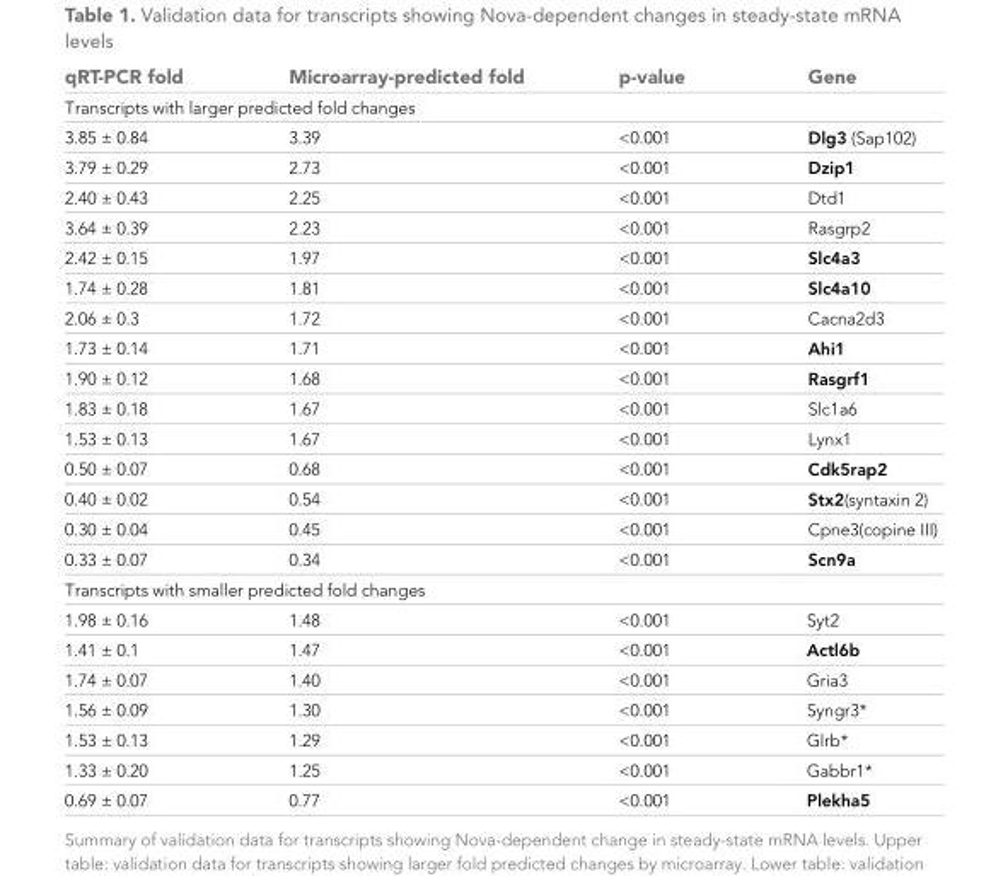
<table><thead><tr><td>qRT-PCR fold</td><td>Microarray-predicted fold</td><td>p-value</td><td>Gene</td></tr></thead><tbody><tr><td colspan="4">Transcripts with larger predicted fold changes</td></tr><tr><td>3.85 ± 0.84</td><td>3.39</td><td>&lt;0.001</td><td>Dlg3 (Sap102)</td></tr><tr><td>3.79 ± 0.29</td><td>2.73</td><td>&lt;0.001</td><td>Dzip1</td></tr><tr><td>2.40 ± 0.43</td><td>2.25</td><td>&lt;0.001</td><td>Dtd1</td></tr><tr><td>3.64 ± 0.39</td><td>2.23</td><td>&lt;0.001</td><td>Rasgrp2</td></tr><tr><td>2.42 ± 0.15</td><td>1.97</td><td>&lt;0.001</td><td>Slc4a3</td></tr><tr><td>1.74 ± 0.28</td><td>1.81</td><td>&lt;0.001</td><td>Slc4a10</td></tr><tr><td>2.06 ± 0.3</td><td>1.72</td><td>&lt;0.001</td><td>Cacna2d3</td></tr><tr><td>1.73 ± 0.14</td><td>1.71</td><td>&lt;0.001</td><td>Ahi1</td></tr><tr><td>1.90 ± 0.12</td><td>1.68</td><td>&lt;0.001</td><td>Rasgrf1</td></tr><tr><td>1.83 ± 0.18</td><td>1.67</td><td>&lt;0.001</td><td>Slc1a6</td></tr><tr><td>1.53 ± 0.13</td><td>1.67</td><td>&lt;0.001</td><td>Lynx1</td></tr><tr><td>0.50 ± 0.07</td><td>0.68</td><td>&lt;0.001</td><td>Cdk5rap2</td></tr><tr><td>0.40 ± 0.02</td><td>0.54</td><td>&lt;0.001</td><td>Stx2(syntaxin 2)</td></tr><tr><td>0.30 ± 0.04</td><td>0.45</td><td>&lt;0.001</td><td>Cpne3(copine III)</td></tr><tr><td>0.33 ± 0.07</td><td>0.34</td><td>&lt;0.001</td><td>Scn9a</td></tr><tr><td colspan="4">Transcripts with smaller predicted fold changes</td></tr><tr><td>1.98 ± 0.16</td><td>1.48</td><td>&lt;0.001</td><td>Syt2</td></tr><tr><td>1.41 ± 0.1</td><td>1.47</td><td>&lt;0.001</td><td>Actl6b</td></tr><tr><td>1.74 ± 0.07</td><td>1.40</td><td>&lt;0.001</td><td>Gria3</td></tr><tr><td>1.56 ± 0.09</td><td>1.30</td><td>&lt;0.001</td><td>Syngr3*</td></tr><tr><td>1.53 ± 0.13</td><td>1.29</td><td>&lt;0.001</td><td>Glrb*</td></tr><tr><td>1.33 ± 0.20</td><td>1.25</td><td>&lt;0.001</td><td>Gabbr1*</td></tr><tr><td>0.69 ± 0.07</td><td>0.77</td><td>&lt;0.001</td><td>Plekha5</td></tr></tbody></table>